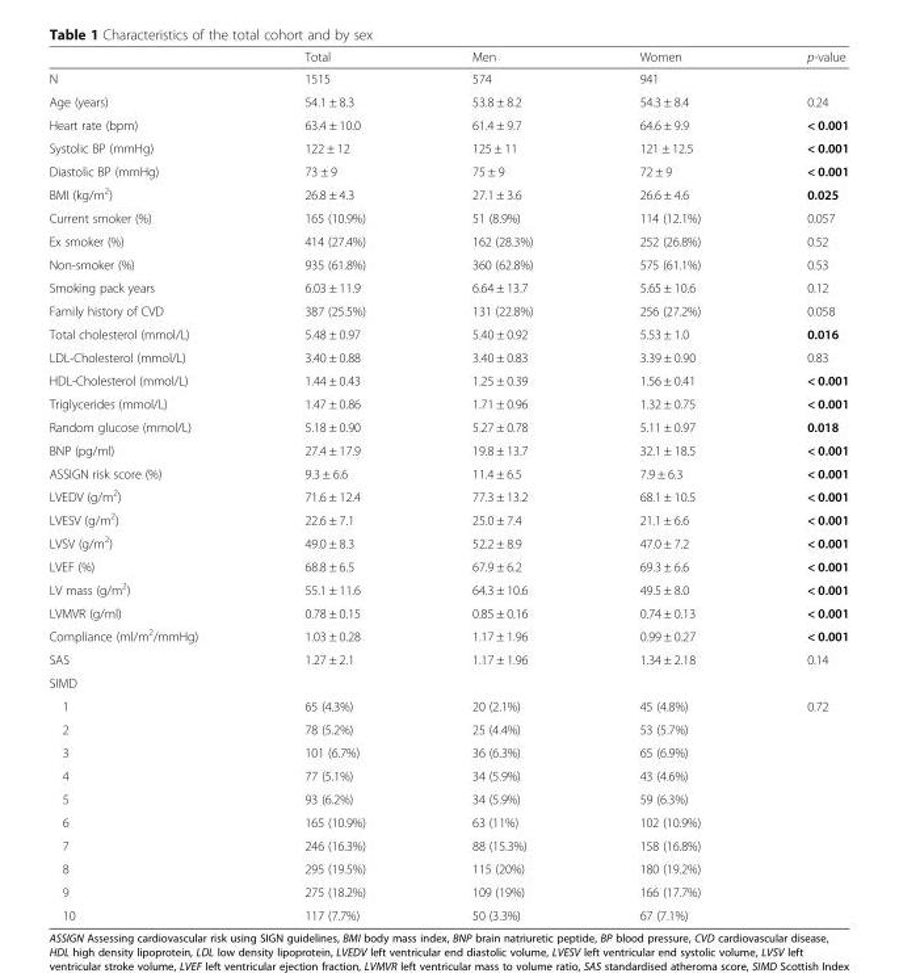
<table><thead><tr><td></td><td>Total</td><td>Men</td><td>Women</td><td>p-value</td></tr></thead><tbody><tr><td>N</td><td>1515</td><td>574</td><td>941</td><td></td></tr><tr><td>Age (years)</td><td>54.1 ± 8.3</td><td>53.8 ± 8.2</td><td>54.3 ± 8.4</td><td>0.24</td></tr><tr><td>Heart rate (bpm)</td><td>63.4 ± 10.0</td><td>61.4 ± 9.7</td><td>64.6 ± 9.9</td><td>&lt; 0.001</td></tr><tr><td>Systolic BP (mmHg)</td><td>122 ± 12</td><td>125 ± 11</td><td>121 ± 12.5</td><td>&lt; 0.001</td></tr><tr><td>Diastolic BP (mmHg)</td><td>73 ± 9</td><td>75 ± 9</td><td>72 ± 9</td><td>&lt; 0.001</td></tr><tr><td>BMI (kg/m<sup>2</sup>)</td><td>26.8 ± 4.3</td><td>27.1 ± 3.6</td><td>26.6 ± 4.6</td><td>0.025</td></tr><tr><td>Current smoker (%)</td><td>165 (10.9%)</td><td>51 (8.9%)</td><td>114 (12.1%)</td><td>0.057</td></tr><tr><td>Ex smoker (%)</td><td>414 (27.4%)</td><td>162 (28.3%)</td><td>252 (26.8%)</td><td>0.52</td></tr><tr><td>Non-smoker (%)</td><td>935 (61.8%)</td><td>360 (62.8%)</td><td>575 (61.1%)</td><td>0.53</td></tr><tr><td>Smoking pack years</td><td>6.03 ± 11.9</td><td>6.64 ± 13.7</td><td>5.65 ± 10.6</td><td>0.12</td></tr><tr><td>Family history of CVD</td><td>387 (25.5%)</td><td>131 (22.8%)</td><td>256 (27.2%)</td><td>0.058</td></tr><tr><td>Total cholesterol (mmol/L)</td><td>5.48 ± 0.97</td><td>5.40 ± 0.92</td><td>5.53 ± 1.0</td><td>0.016</td></tr><tr><td>LDL-Cholesterol (mmol/L)</td><td>3.40 ± 0.88</td><td>3.40 ± 0.83</td><td>3.39 ± 0.90</td><td>0.83</td></tr><tr><td>HDL-Cholesterol (mmol/L)</td><td>1.44 ± 0.43</td><td>1.25 ± 0.39</td><td>1.56 ± 0.41</td><td>&lt; 0.001</td></tr><tr><td>Triglycerides (mmol/L)</td><td>1.47 ± 0.86</td><td>1.71 ± 0.96</td><td>1.32 ± 0.75</td><td>&lt; 0.001</td></tr><tr><td>Random glucose (mmol/L)</td><td>5.18 ± 0.90</td><td>5.27 ± 0.78</td><td>5.11 ± 0.97</td><td>0.018</td></tr><tr><td>BNP (pg/ml)</td><td>27.4 ± 17.9</td><td>19.8 ± 13.7</td><td>32.1 ± 18.5</td><td>&lt; 0.001</td></tr><tr><td>ASSIGN risk score (%)</td><td>9.3 ± 6.6</td><td>11.4 ± 6.5</td><td>7.9 ± 6.3</td><td>&lt; 0.001</td></tr><tr><td>LVEDV (g/m<sup>2</sup>)</td><td>71.6 ± 12.4</td><td>77.3 ± 13.2</td><td>68.1 ± 10.5</td><td>&lt; 0.001</td></tr><tr><td>LVESV (g/m<sup>2</sup>)</td><td>22.6 ± 7.1</td><td>25.0 ± 7.4</td><td>21.1 ± 6.6</td><td>&lt; 0.001</td></tr><tr><td>LVSV (g/m<sup>2</sup>)</td><td>49.0 ± 8.3</td><td>52.2 ± 8.9</td><td>47.0 ± 7.2</td><td>&lt; 0.001</td></tr><tr><td>LVEF (%)</td><td>68.8 ± 6.5</td><td>67.9 ± 6.2</td><td>69.3 ± 6.6</td><td>&lt; 0.001</td></tr><tr><td>LV mass (g/m<sup>2</sup>)</td><td>55.1 ± 11.6</td><td>64.3 ± 10.6</td><td>49.5 ± 8.0</td><td>&lt; 0.001</td></tr><tr><td>LVMVR (g/ml)</td><td>0.78 ± 0.15</td><td>0.85 ± 0.16</td><td>0.74 ± 0.13</td><td>&lt; 0.001</td></tr><tr><td>Compliance (ml/m<sup>2</sup>/mmHg)</td><td>1.03 ± 0.28</td><td>1.17 ± 1.96</td><td>0.99 ± 0.27</td><td>&lt; 0.001</td></tr><tr><td>SAS</td><td>1.27 ± 2.1</td><td>1.17 ± 1.96</td><td>1.34 ± 2.18</td><td>0.14</td></tr><tr><td colspan="5">SIMD</td></tr><tr><td>1</td><td>65 (4.3%)</td><td>20 (2.1%)</td><td>45 (4.8%)</td><td rowspan="10">0.72</td></tr><tr><td>2</td><td>78 (5.2%)</td><td>25 (4.4%)</td><td>53 (5.7%)</td></tr><tr><td>3</td><td>101 (6.7%)</td><td>36 (6.3%)</td><td>65 (6.9%)</td></tr><tr><td>4</td><td>77 (5.1%)</td><td>34 (5.9%)</td><td>43 (4.6%)</td></tr><tr><td>5</td><td>93 (6.2%)</td><td>34 (5.9%)</td><td>59 (6.3%)</td></tr><tr><td>6</td><td>165 (10.9%)</td><td>63 (11%)</td><td>102 (10.9%)</td></tr><tr><td>7</td><td>246 (16.3%)</td><td>88 (15.3%)</td><td>158 (16.8%)</td></tr><tr><td>8</td><td>295 (19.5%)</td><td>115 (20%)</td><td>180 (19.2%)</td></tr><tr><td>9</td><td>275 (18.2%)</td><td>109 (19%)</td><td>166 (17.7%)</td></tr><tr><td>10</td><td>117 (7.7%)</td><td>50 (3.3%)</td><td>67 (7.1%)</td></tr></tbody></table>